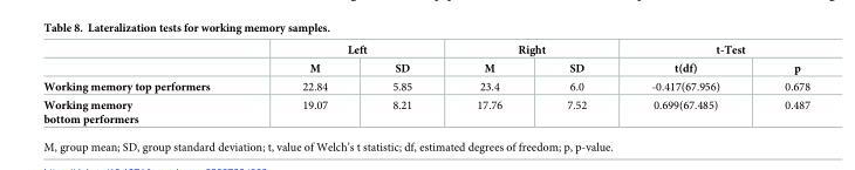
<table><thead><tr><td rowspan="2"></td><td colspan="2">Left</td><td colspan="2">Right</td><td colspan="2">t-Test</td></tr><tr><td>M</td><td>SD</td><td>M</td><td>SD</td><td>t(df)</td><td>p</td></tr></thead><tbody><tr><td>Working memory top performers</td><td>22.84</td><td>5.85</td><td>23.4</td><td>6.0</td><td>-0.417(67.956)</td><td>0.678</td></tr><tr><td>Working memory bottom performers</td><td>19.07</td><td>8.21</td><td>17.76</td><td>7.52</td><td>0.699(67.485)</td><td>0.487</td></tr></tbody></table>